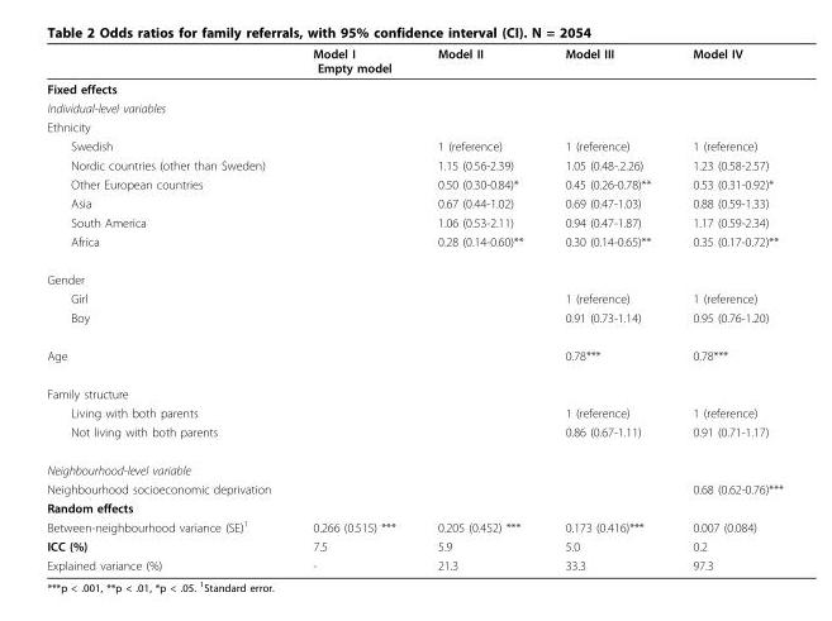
<table><thead><tr><td></td><td>Model I Empty model</td><td>Model II</td><td>Model III</td><td>Model IV</td></tr></thead><tbody><tr><td colspan="5">Fixed effects</td></tr><tr><td colspan="5">Individual-level variables</td></tr><tr><td colspan="5">Ethnicity</td></tr><tr><td>Swedish</td><td></td><td>1 (reference)</td><td>1 (reference)</td><td>1 (reference)</td></tr><tr><td>Nordic countries (other than Sweden)</td><td></td><td>1.15 (0.56-2.39)</td><td>1.05 (0.48-.2.26)</td><td>1.23 (0.58-2.57)</td></tr><tr><td>Other European countries</td><td></td><td>0.50 (0.30-0.84)*</td><td>0.45 (0.26-0.78)**</td><td>0.53 (0.31-0.92)*</td></tr><tr><td>Asia</td><td></td><td>0.67 (0.44-1.02)</td><td>0.69 (0.47-1.03)</td><td>0.88 (0.59-1.33)</td></tr><tr><td>South America</td><td></td><td>1.06 (0.53-2.11)</td><td>0.94 (0.47-1.87)</td><td>1.17 (0.59-2.34)</td></tr><tr><td>Africa</td><td></td><td>0.28 (0.14-0.60)**</td><td>0.30 (0.14-0.65)**</td><td>0.35 (0.17-0.72)**</td></tr><tr><td colspan="5">Gender</td></tr><tr><td>Girl</td><td></td><td></td><td>1 (reference)</td><td>1 (reference)</td></tr><tr><td>Boy</td><td></td><td></td><td>0.91 (0.73-1.14)</td><td>0.95 (0.76-1.20)</td></tr><tr><td>Age</td><td></td><td></td><td>0.78***</td><td>0.78***</td></tr><tr><td colspan="5">Family structure</td></tr><tr><td>Living with both parents</td><td></td><td></td><td>1 (reference)</td><td>1 (reference)</td></tr><tr><td>Not living with both parents</td><td></td><td></td><td>0.86 (0.67-1.11)</td><td>0.91 (0.71-1.17)</td></tr><tr><td colspan="5">Neighbourhood-level variable</td></tr><tr><td>Neighbourhood socioeconomic deprivation</td><td></td><td></td><td></td><td>0.68 (0.62-0.76)***</td></tr><tr><td colspan="5">Random effects</td></tr><tr><td>Between-neighbourhood variance (SE)<sup>1</sup></td><td>0.266 (0.515) ***</td><td>0.205 (0.452) ***</td><td>0.173 (0.416)***</td><td>0.007 (0.084)</td></tr><tr><td>ICC (%)</td><td>7.5</td><td>5.9</td><td>5.0</td><td>0.2</td></tr><tr><td>Explained variance (%)</td><td>-</td><td>21.3</td><td>33.3</td><td>97.3</td></tr></tbody></table>